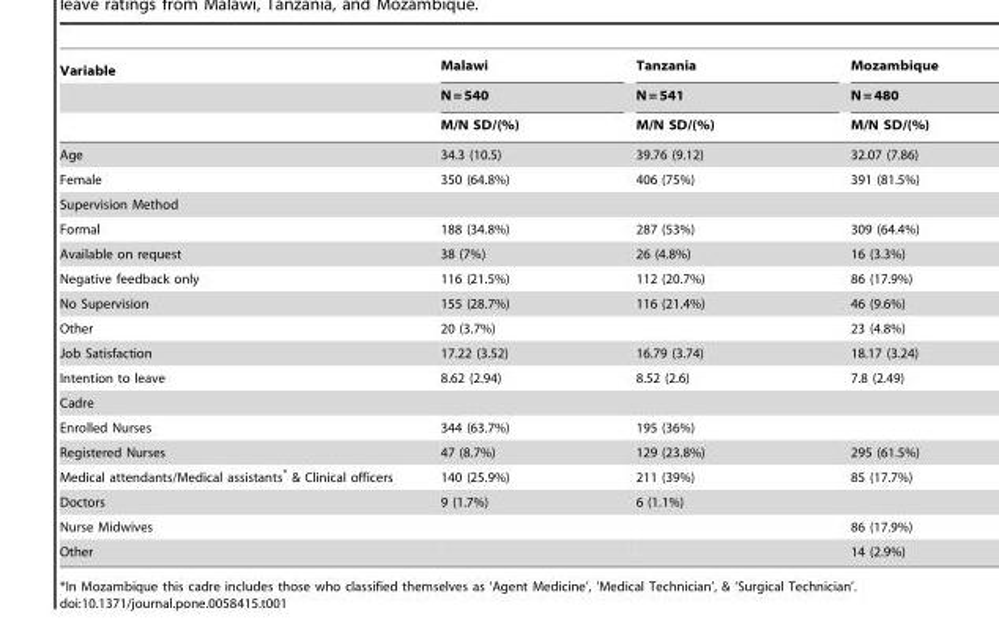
<table><thead><tr><td rowspan="3">Variable</td><td rowspan="3">Malawi N = 540 M/N SD/(%)</td><td rowspan="3">Tanzania N = 541 M/N SD/(%)</td><td rowspan="3">Mozambique N = 480 M/N SD/(%)</td></tr><tr></tr><tr></tr></thead><tbody><tr><td>Age</td><td>34.3 (10.5)</td><td>39.76 (9.12)</td><td>32.07 (7.86)</td></tr><tr><td>Female</td><td>350 (64.8%)</td><td>406 (75%)</td><td>391 (81.5%)</td></tr><tr><td colspan="4">Supervision Method</td></tr><tr><td>Formal</td><td>188 (34.8%)</td><td>287 (53%)</td><td>309 (64.4%)</td></tr><tr><td>Available on request</td><td>38 (7%)</td><td>26 (4.8%)</td><td>16 (3.3%)</td></tr><tr><td>Negative feedback only</td><td>116 (21.5%)</td><td>112 (20.7%)</td><td>86 (17.9%)</td></tr><tr><td>No Supervision</td><td>155 (28.7%)</td><td>116 (21.4%)</td><td>46 (9.6%)</td></tr><tr><td>Other</td><td>20 (3.7%)</td><td></td><td>23 (4.8%)</td></tr><tr><td>Job Satisfaction</td><td>17.22 (3.52)</td><td>16.79 (3.74)</td><td>18.17 (3.24)</td></tr><tr><td>Intention to leave</td><td>8.62 (2.94)</td><td>8.52 (2.6)</td><td>7.8 (2.49)</td></tr><tr><td colspan="4">Cadre</td></tr><tr><td>Enrolled Nurses</td><td>344 (63.7%)</td><td>195 (36%)</td><td></td></tr><tr><td>Registered Nurses</td><td>47 (8.7%)</td><td>129 (23.8%)</td><td>295 (61.5%)</td></tr><tr><td>Medical attendants/Medical assistants* &amp; Clinical officers</td><td>140 (25.9%)</td><td>211 (39%)</td><td>85 (17.7%)</td></tr><tr><td>Doctors</td><td>9 (1.7%)</td><td>6 (1.1%)</td><td></td></tr><tr><td>Nurse Midwives</td><td></td><td></td><td>86 (17.9%)</td></tr><tr><td>Other</td><td></td><td></td><td>14 (2.9%)</td></tr></tbody></table>